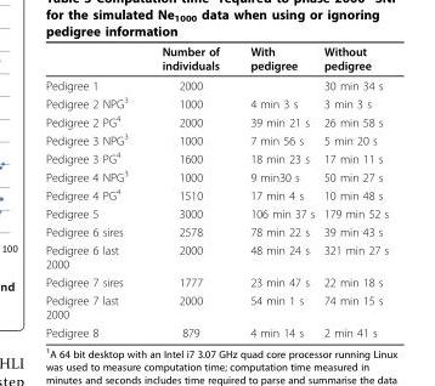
<table><thead><tr><td></td><td>Number of individuals</td><td>With pedigree</td><td>Without pedigree</td></tr></thead><tbody><tr><td>Pedigree 1</td><td>2000</td><td></td><td>30 min 34 s</td></tr><tr><td>Pedigree 2 NPG<sup>3</sup></td><td>1000</td><td>4 min 3 s</td><td>3 min 3 s</td></tr><tr><td>Pedigree 2 PG<sup>4</sup></td><td>2000</td><td>39 min 21 s</td><td>26 min 58 s</td></tr><tr><td>Pedigree 3 NPG<sup>3</sup></td><td>1000</td><td>7 min 56 s</td><td>5 min 20 s</td></tr><tr><td>Pedigree 3 PG<sup>4</sup></td><td>1600</td><td>18 min 23 s</td><td>17 min 11 s</td></tr><tr><td>Pedigree 4 NPG<sup>3</sup></td><td>1000</td><td>9 min30 s</td><td>50 min 27 s</td></tr><tr><td>Pedigree 4 PG<sup>4</sup></td><td>1510</td><td>17 min 4 s</td><td>10 min 48 s</td></tr><tr><td>Pedigree 5</td><td>3000</td><td>106 min 37 s</td><td>179 min 52 s</td></tr><tr><td>Pedigree 6 sires</td><td>2578</td><td>78 min 22 s</td><td>39 min 43 s</td></tr><tr><td>Pedigree 6 last 2000</td><td>2000</td><td>48 min 24 s</td><td>321 min 27 s</td></tr><tr><td>Pedigree 7 sires</td><td>1777</td><td>23 min 47 s</td><td>22 min 18 s</td></tr><tr><td>Pedigree 7 last 2000</td><td>2000</td><td>54 min 1 s</td><td>74 min 15 s</td></tr><tr><td>Pedigree 8</td><td>879</td><td>4 min 14 s</td><td>2 min 41 s</td></tr></tbody></table>